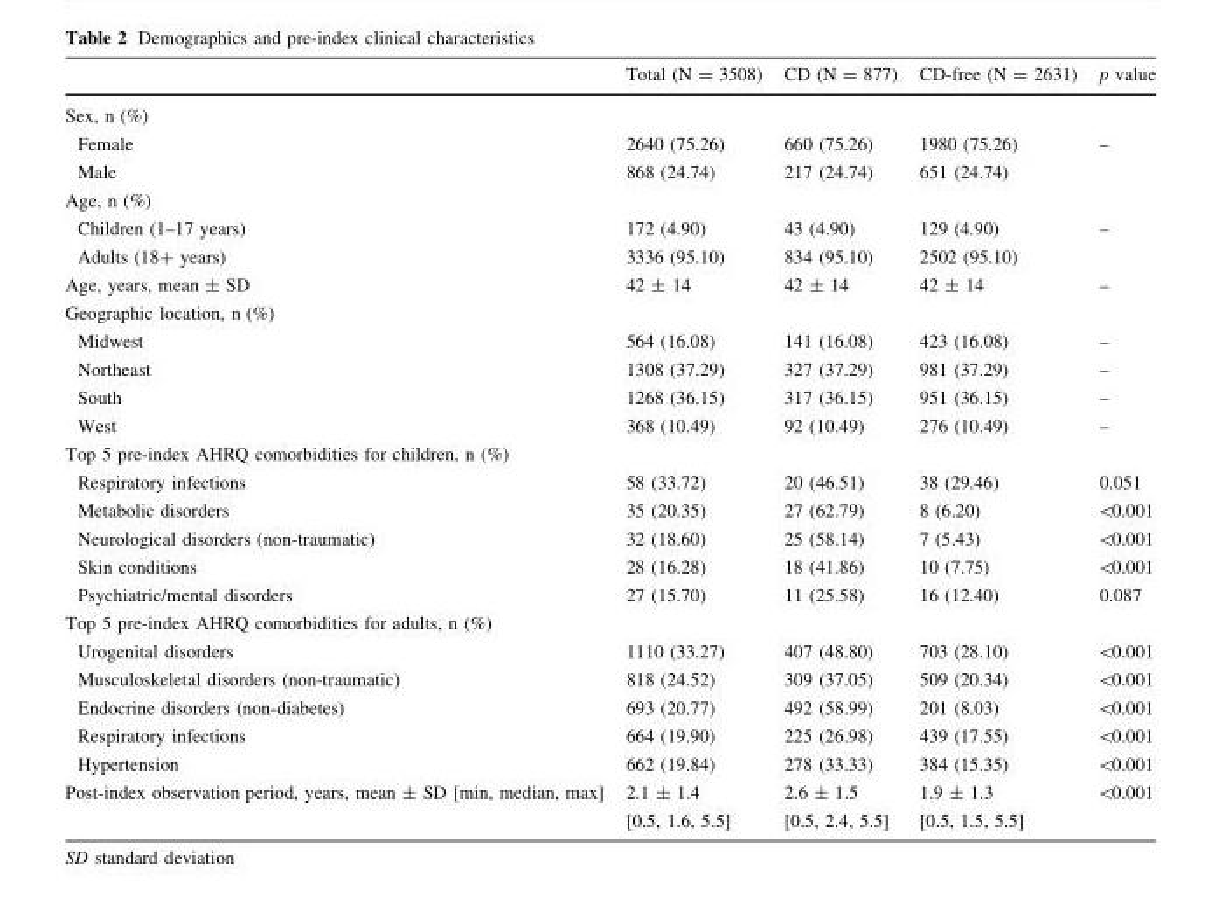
<table><thead><tr><td></td><td>Total (N = 3508)</td><td>CD (N = 877)</td><td>CD-free (N = 2631)</td><td>p value</td></tr></thead><tbody><tr><td colspan="5">Sex, n (%)</td></tr><tr><td>Female</td><td>2640 (75.26)</td><td>660 (75.26)</td><td>1980 (75.26)</td><td>–</td></tr><tr><td>Male</td><td>868 (24.74)</td><td>217 (24.74)</td><td>651 (24.74)</td><td></td></tr><tr><td colspan="5">Age, n (%)</td></tr><tr><td>Children (1–17 years)</td><td>172 (4.90)</td><td>43 (4.90)</td><td>129 (4.90)</td><td>–</td></tr><tr><td>Adults (18+ years)</td><td>3336 (95.10)</td><td>834 (95.10)</td><td>2502 (95.10)</td><td></td></tr><tr><td>Age, years, mean ± SD</td><td>42 ± 14</td><td>42 ± 14</td><td>42 ± 14</td><td>–</td></tr><tr><td colspan="5">Geographic location, n (%)</td></tr><tr><td>Midwest</td><td>564 (16.08)</td><td>141 (16.08)</td><td>423 (16.08)</td><td>–</td></tr><tr><td>Northeast</td><td>1308 (37.29)</td><td>327 (37.29)</td><td>981 (37.29)</td><td>–</td></tr><tr><td>South</td><td>1268 (36.15)</td><td>317 (36.15)</td><td>951 (36.15)</td><td>–</td></tr><tr><td>West</td><td>368 (10.49)</td><td>92 (10.49)</td><td>276 (10.49)</td><td>–</td></tr><tr><td colspan="5">Top 5 pre-index AHRQ comorbidities for children, n (%)</td></tr><tr><td>Respiratory infections</td><td>58 (33.72)</td><td>20 (46.51)</td><td>38 (29.46)</td><td>0.051</td></tr><tr><td>Metabolic disorders</td><td>35 (20.35)</td><td>27 (62.79)</td><td>8 (6.20)</td><td>&lt;0.001</td></tr><tr><td>Neurological disorders (non-traumatic)</td><td>32 (18.60)</td><td>25 (58.14)</td><td>7 (5.43)</td><td>&lt;0.001</td></tr><tr><td>Skin conditions</td><td>28 (16.28)</td><td>18 (41.86)</td><td>10 (7.75)</td><td>&lt;0.001</td></tr><tr><td>Psychiatric/mental disorders</td><td>27 (15.70)</td><td>11 (25.58)</td><td>16 (12.40)</td><td>0.087</td></tr><tr><td colspan="5">Top 5 pre-index AHRQ comorbidities for adults, n (%)</td></tr><tr><td>Urogenital disorders</td><td>1110 (33.27)</td><td>407 (48.80)</td><td>703 (28.10)</td><td>&lt;0.001</td></tr><tr><td>Musculoskeletal disorders (non-traumatic)</td><td>818 (24.52)</td><td>309 (37.05)</td><td>509 (20.34)</td><td>&lt;0.001</td></tr><tr><td>Endocrine disorders (non-diabetes)</td><td>693 (20.77)</td><td>492 (58.99)</td><td>201 (8.03)</td><td>&lt;0.001</td></tr><tr><td>Respiratory infections</td><td>664 (19.90)</td><td>225 (26.98)</td><td>439 (17.55)</td><td>&lt;0.001</td></tr><tr><td>Hypertension</td><td>662 (19.84)</td><td>278 (33.33)</td><td>384 (15.35)</td><td>&lt;0.001</td></tr><tr><td>Post-index observation period, years, mean ± SD [min, median, max]</td><td>2.1 ± 1.4 [0.5, 1.6, 5.5]</td><td>2.6 ± 1.5 [0.5, 2.4, 5.5]</td><td>1.9 ± 1.3 [0.5, 1.5, 5.5]</td><td>&lt;0.001</td></tr></tbody></table>